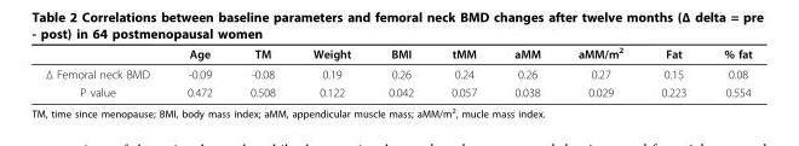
<table><thead><tr><td></td><td>Age</td><td>TM</td><td>Weight</td><td>BMI</td><td>tMM</td><td>aMM</td><td>aMM/m<sup>2</sup></td><td>Fat</td><td>% fat</td></tr></thead><tbody><tr><td>Δ Femoral neck BMD</td><td>-0.09</td><td>-0.08</td><td>0.19</td><td>0.26</td><td>0.24</td><td>0.26</td><td>0.27</td><td>0.15</td><td>0.08</td></tr><tr><td>P value</td><td>0.472</td><td>0.508</td><td>0.122</td><td>0.042</td><td>0.057</td><td>0.038</td><td>0.029</td><td>0.223</td><td>0.554</td></tr></tbody></table>